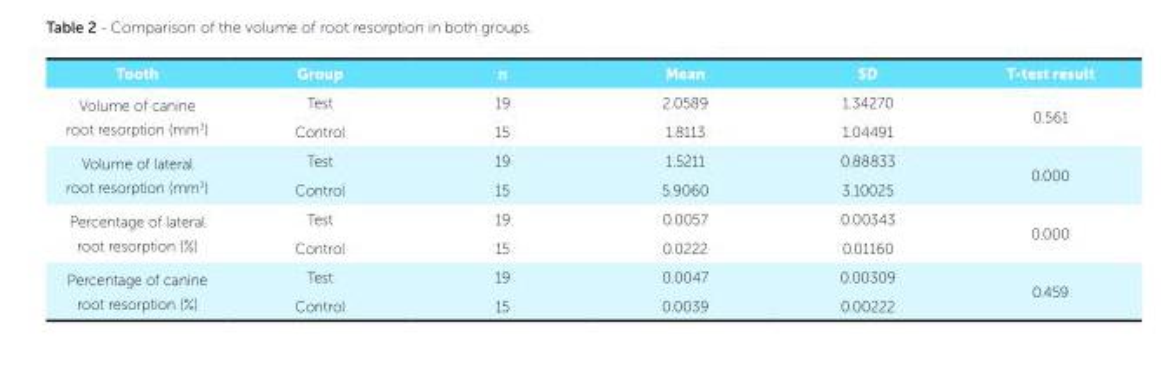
<table><thead><tr><td>Tooth</td><td>Group</td><td>n</td><td>Mean</td><td>SD</td><td>T-test result</td></tr></thead><tbody><tr><td rowspan="2">Volume of canine root resorption (mm<sup>3)</sup></td><td>Test</td><td>19</td><td>2.0589</td><td>1.34270</td><td rowspan="2">0.561</td></tr><tr><td>Control</td><td>15</td><td>1.8113</td><td>1.04491</td></tr><tr><td rowspan="2">Volume of lateral root resorption (mm<sup>3)</sup></td><td>Test</td><td>19</td><td>1.5211</td><td>0.88833</td><td rowspan="2">0.000</td></tr><tr><td>Control</td><td>15</td><td>5.9060</td><td>3.10025</td></tr><tr><td rowspan="2">Percentage of lateral root resorption (%)</td><td>Test</td><td>19</td><td>0.0057</td><td>0.00343</td><td rowspan="2">0.000</td></tr><tr><td>Control</td><td>15</td><td>0.0222</td><td>0.01160</td></tr><tr><td rowspan="2">Percentage of canine root resorption (%)</td><td>Test</td><td>19</td><td>0.0047</td><td>0.00309</td><td rowspan="2">0.459</td></tr><tr><td>Control</td><td>15</td><td>0.0039</td><td>0.00222</td></tr></tbody></table>